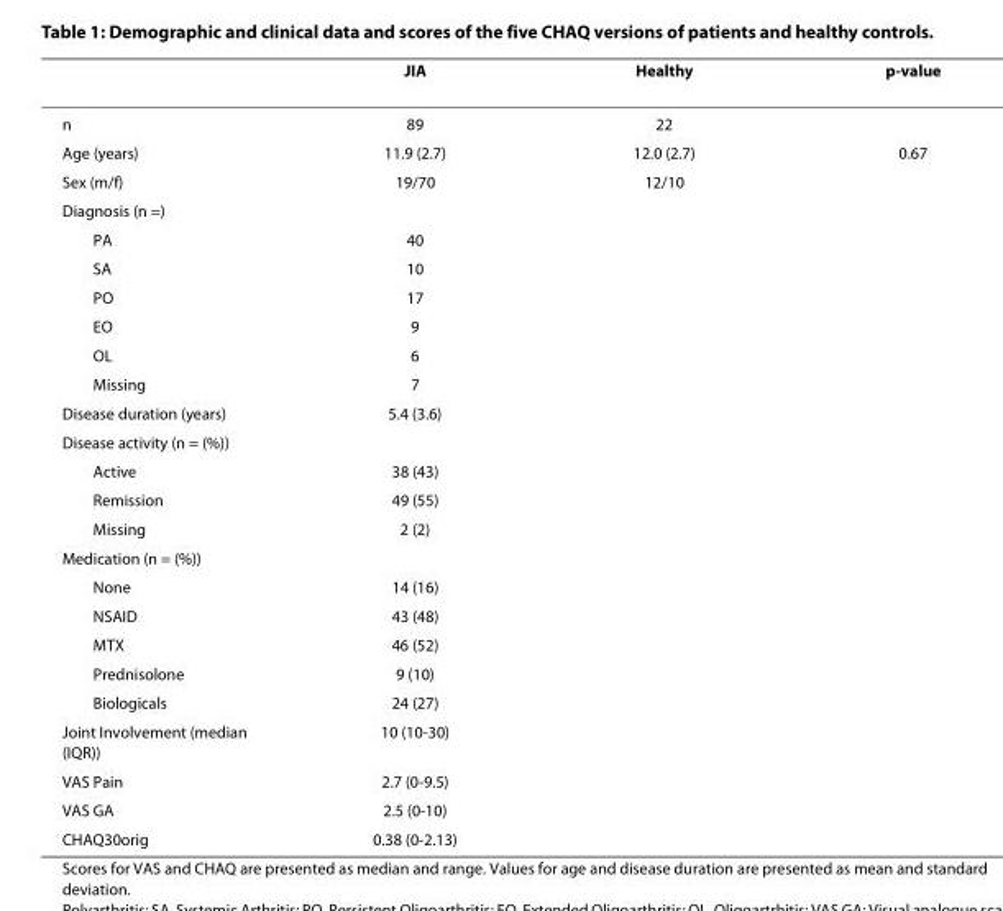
<table><thead><tr><td></td><td>JIA</td><td>Healthy</td><td>p-value</td></tr></thead><tbody><tr><td>n</td><td>89</td><td>22</td><td></td></tr><tr><td>Age (years)</td><td>11.9 (2.7)</td><td>12.0 (2.7)</td><td>0.67</td></tr><tr><td>Sex (m/f)</td><td>19/70</td><td>12/10</td><td></td></tr><tr><td colspan="4">Diagnosis (n =)</td></tr><tr><td>PA</td><td>40</td><td></td><td></td></tr><tr><td>SA</td><td>10</td><td></td><td></td></tr><tr><td>PO</td><td>17</td><td></td><td></td></tr><tr><td>EO</td><td>9</td><td></td><td></td></tr><tr><td>OL</td><td>6</td><td></td><td></td></tr><tr><td>Missing</td><td>7</td><td></td><td></td></tr><tr><td>Disease duration (years)</td><td>5.4 (3.6)</td><td></td><td></td></tr><tr><td colspan="4">Disease activity (n = (%))</td></tr><tr><td>Active</td><td>38 (43)</td><td></td><td></td></tr><tr><td>Remission</td><td>49 (55)</td><td></td><td></td></tr><tr><td>Missing</td><td>2 (2)</td><td></td><td></td></tr><tr><td colspan="4">Medication (n = (%))</td></tr><tr><td>None</td><td>14 (16)</td><td></td><td></td></tr><tr><td>NSAID</td><td>43 (48)</td><td></td><td></td></tr><tr><td>MTX</td><td>46 (52)</td><td></td><td></td></tr><tr><td>Prednisolone</td><td>9 (10)</td><td></td><td></td></tr><tr><td>Biologicals</td><td>24 (27)</td><td></td><td></td></tr><tr><td>Joint Involvement (median (IQR))</td><td>10 (10-30)</td><td></td><td></td></tr><tr><td>VAS Pain</td><td>2.7 (0-9.5)</td><td></td><td></td></tr><tr><td>VAS GA</td><td>2.5 (0-10)</td><td></td><td></td></tr><tr><td>CHAQ30orig</td><td>0.38 (0-2.13)</td><td></td><td></td></tr></tbody></table>